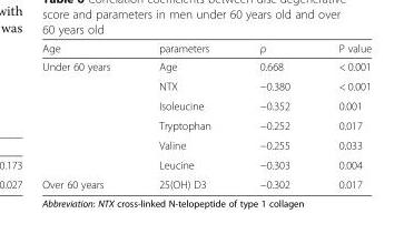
<table><thead><tr><td>Age</td><td>parameters</td><td>ρ</td><td>P value</td></tr></thead><tbody><tr><td rowspan="6">Under 60 years</td><td>Age</td><td>0.668</td><td>&lt; 0.001</td></tr><tr><td>NTX</td><td>−0.380</td><td>&lt; 0.001</td></tr><tr><td>Isoleucine</td><td>−0.352</td><td>0.001</td></tr><tr><td>Tryptophan</td><td>−0.252</td><td>0.017</td></tr><tr><td>Valine</td><td>−0.255</td><td>0.033</td></tr><tr><td>Leucine</td><td>−0.303</td><td>0.004</td></tr><tr><td>Over 60 years</td><td>25(OH) D3</td><td>−0.302</td><td>0.017</td></tr></tbody></table>